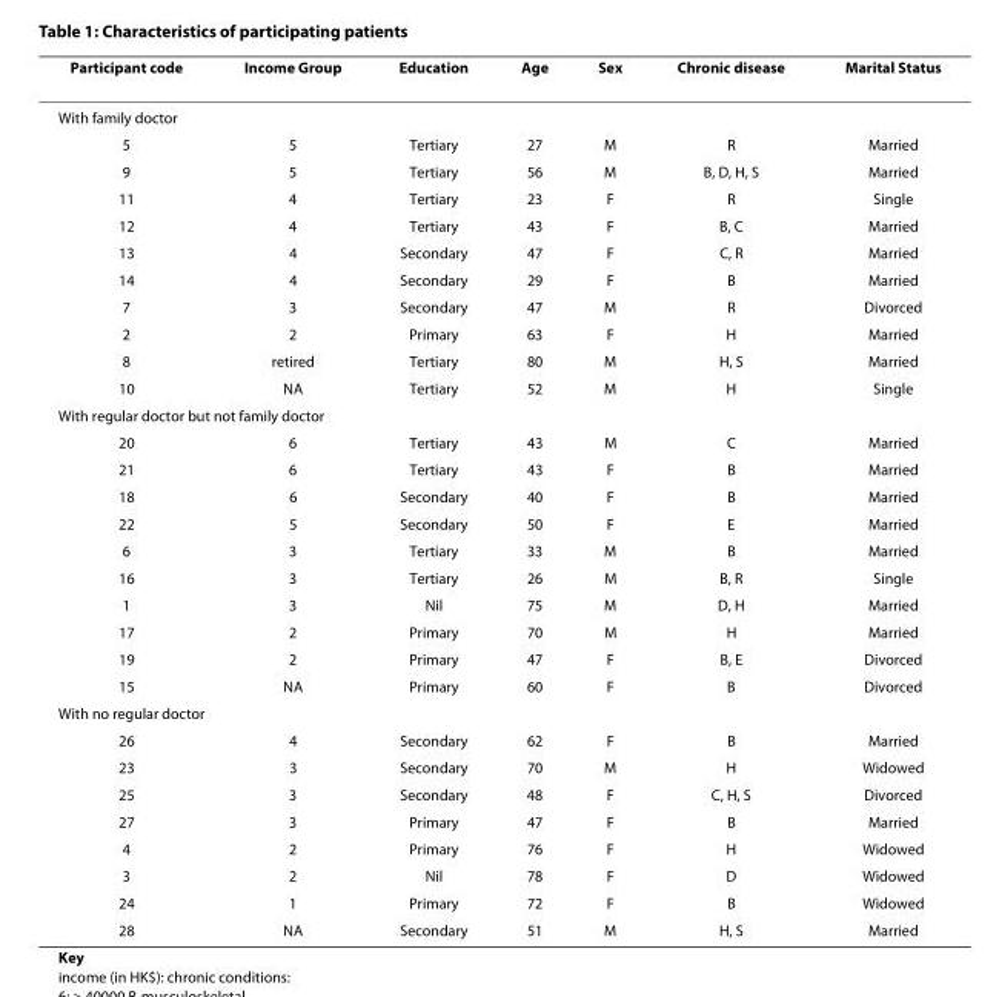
<table><thead><tr><td>Participant code</td><td>Income Group</td><td>Education</td><td>Age</td><td>Sex</td><td>Chronic disease</td><td>Marital Status</td></tr></thead><tbody><tr><td colspan="7">With family doctor</td></tr><tr><td>5</td><td>5</td><td>Tertiary</td><td>27</td><td>M</td><td>R</td><td>Married</td></tr><tr><td>9</td><td>5</td><td>Tertiary</td><td>56</td><td>M</td><td>B, D, H, S</td><td>Married</td></tr><tr><td>11</td><td>4</td><td>Tertiary</td><td>23</td><td>F</td><td>R</td><td>Single</td></tr><tr><td>12</td><td>4</td><td>Tertiary</td><td>43</td><td>F</td><td>B, C</td><td>Married</td></tr><tr><td>13</td><td>4</td><td>Secondary</td><td>47</td><td>F</td><td>C, R</td><td>Married</td></tr><tr><td>14</td><td>4</td><td>Secondary</td><td>29</td><td>F</td><td>B</td><td>Married</td></tr><tr><td>7</td><td>3</td><td>Secondary</td><td>47</td><td>M</td><td>R</td><td>Divorced</td></tr><tr><td>2</td><td>2</td><td>Primary</td><td>63</td><td>F</td><td>H</td><td>Married</td></tr><tr><td>8</td><td>retired</td><td>Tertiary</td><td>80</td><td>M</td><td>H, S</td><td>Married</td></tr><tr><td>10</td><td>NA</td><td>Tertiary</td><td>52</td><td>M</td><td>H</td><td>Single</td></tr><tr><td colspan="7">With regular doctor but not family doctor</td></tr><tr><td>20</td><td>6</td><td>Tertiary</td><td>43</td><td>M</td><td>C</td><td>Married</td></tr><tr><td>21</td><td>6</td><td>Tertiary</td><td>43</td><td>F</td><td>B</td><td>Married</td></tr><tr><td>18</td><td>6</td><td>Secondary</td><td>40</td><td>F</td><td>B</td><td>Married</td></tr><tr><td>22</td><td>5</td><td>Secondary</td><td>50</td><td>F</td><td>E</td><td>Married</td></tr><tr><td>6</td><td>3</td><td>Tertiary</td><td>33</td><td>M</td><td>B</td><td>Married</td></tr><tr><td>16</td><td>3</td><td>Tertiary</td><td>26</td><td>M</td><td>B, R</td><td>Single</td></tr><tr><td>1</td><td>3</td><td>Nil</td><td>75</td><td>M</td><td>D, H</td><td>Married</td></tr><tr><td>17</td><td>2</td><td>Primary</td><td>70</td><td>M</td><td>H</td><td>Married</td></tr><tr><td>19</td><td>2</td><td>Primary</td><td>47</td><td>F</td><td>B, E</td><td>Divorced</td></tr><tr><td>15</td><td>NA</td><td>Primary</td><td>60</td><td>F</td><td>B</td><td>Divorced</td></tr><tr><td colspan="7">With no regular doctor</td></tr><tr><td>26</td><td>4</td><td>Secondary</td><td>62</td><td>F</td><td>B</td><td>Married</td></tr><tr><td>23</td><td>3</td><td>Secondary</td><td>70</td><td>M</td><td>H</td><td>Widowed</td></tr><tr><td>25</td><td>3</td><td>Secondary</td><td>48</td><td>F</td><td>C, H, S</td><td>Divorced</td></tr><tr><td>27</td><td>3</td><td>Primary</td><td>47</td><td>F</td><td>B</td><td>Married</td></tr><tr><td>4</td><td>2</td><td>Primary</td><td>76</td><td>F</td><td>H</td><td>Widowed</td></tr><tr><td>3</td><td>2</td><td>Nil</td><td>78</td><td>F</td><td>D</td><td>Widowed</td></tr><tr><td>24</td><td>1</td><td>Primary</td><td>72</td><td>F</td><td>B</td><td>Widowed</td></tr><tr><td>28</td><td>NA</td><td>Secondary</td><td>51</td><td>M</td><td>H, S</td><td>Married</td></tr></tbody></table>